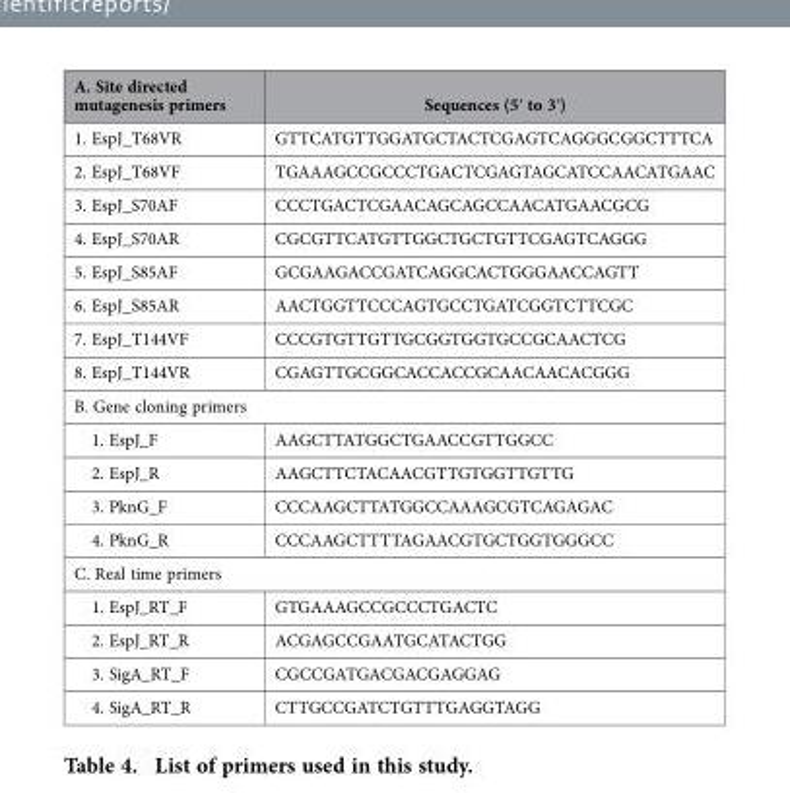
<table><thead><tr><td>A. Site directed mutagenesis primers</td><td>Sequences (5ʹ to 3ʹ)</td></tr></thead><tbody><tr><td>1. EspJ_T68VR</td><td>GTTCATGTTGGATGCTACTCGAGTCAGGGCGGCTTTCA</td></tr><tr><td>2. EspJ_T68VF</td><td>TGAAAGCCGCCCTGACTCGAGTAGCATCCAACATGAAC</td></tr><tr><td>3. EspJ_S70AF</td><td>CCCTGACTCGAACAGCAGCCAACATGAACGCG</td></tr><tr><td>4. EspJ_S70AR</td><td>CGCGTTCATGTTGGCTGCTGTTCGAGTCAGGG</td></tr><tr><td>5. EspJ_S85AF</td><td>GCGAAGACCGATCAGGCACTGGGAACCAGTT</td></tr><tr><td>6. EspJ_S85AR</td><td>AACTGGTTCCCAGTGCCTGATCGGTCTTCGC</td></tr><tr><td>7. EspJ_T144VF</td><td>CCCGTGTTGTTGCGGTGGTGCCGCAACTCG</td></tr><tr><td>8. EspJ_T144VR</td><td>CGAGTTGCGGCACCACCGCAACAACACGGG</td></tr><tr><td colspan="2">B. Gene cloning primers</td></tr><tr><td>1. EspJ_F</td><td>AAGCTTATGGCTGAACCGTTGGCC</td></tr><tr><td>2. EspJ_R</td><td>AAGCTTCTACAACGTTGTGGTTGTTG</td></tr><tr><td>3. PknG_F</td><td>CCCAAGCTTATGGCCAAAGCGTCAGAGAC</td></tr><tr><td>4. PknG_R</td><td>CCCAAGCTTTTAGAACGTGCTGGTGGGCC</td></tr><tr><td colspan="2">C. Real time primers</td></tr><tr><td>1. EspJ_RT_F</td><td>GTGAAAGCCGCCCTGACTC</td></tr><tr><td>2. EspJ_RT_R</td><td>ACGAGCCGAATGCATACTGG</td></tr><tr><td>3. SigA_RT_F</td><td>CGCCGATGACGACGAGGAG</td></tr><tr><td>4. SigA_RT_R</td><td>CTTGCCGATCTGTTTGAGGTAGG</td></tr></tbody></table>